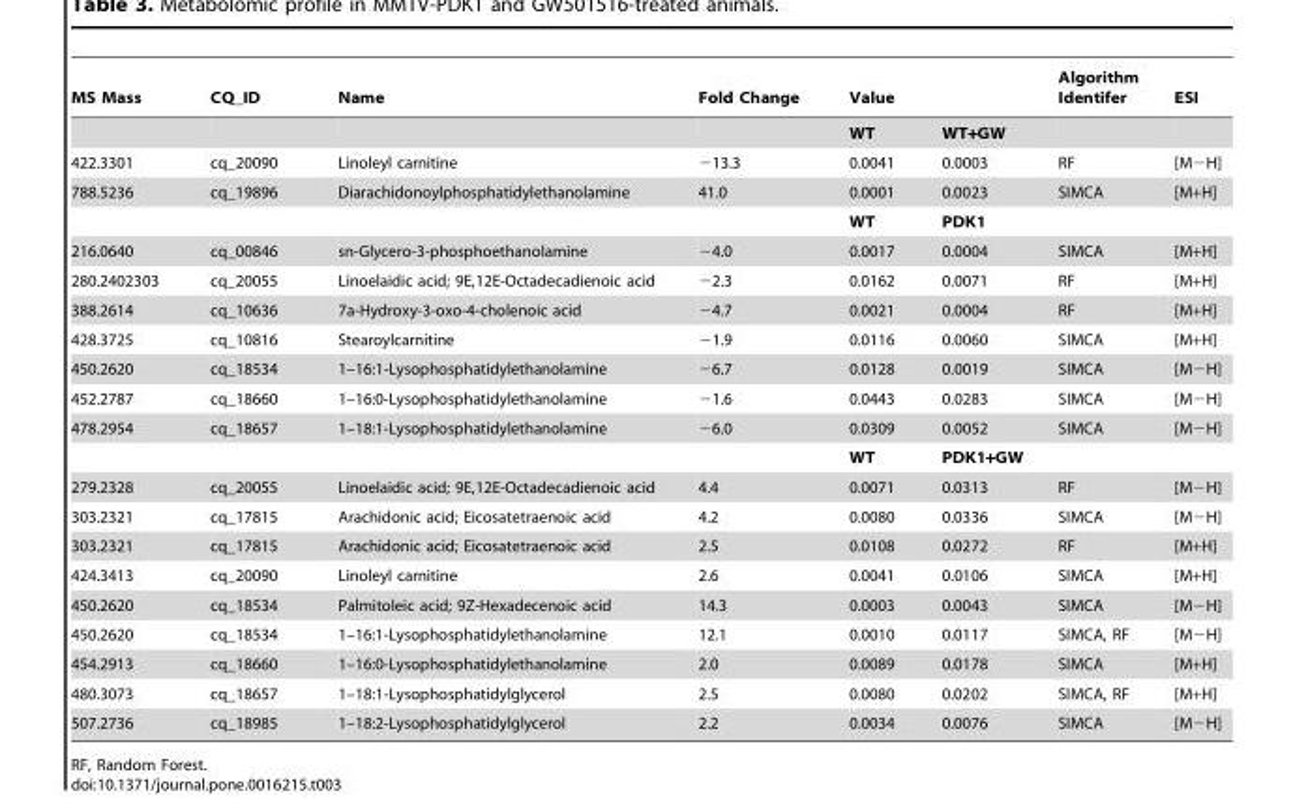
<table><thead><tr><td>MS Mass</td><td>CQ_ID</td><td>Name</td><td>Fold Change</td><td>Value</td><td></td><td>Algorithm Identifer</td><td>ESI</td></tr></thead><tbody><tr><td></td><td></td><td></td><td></td><td>WT</td><td>WT+GW</td><td></td><td></td></tr><tr><td>422.3301</td><td>cq_20090</td><td>Linoleyl carnitine</td><td>−13.3</td><td>0.0041</td><td>0.0003</td><td>RF</td><td>[M−H]</td></tr><tr><td rowspan="2">788.5236</td><td>cq_19896</td><td>Diarachidonoylphosphatidylethanolamine</td><td>41.0</td><td>0.0001</td><td>0.0023</td><td>SIMCA</td><td>[M+H]</td></tr><tr><td></td><td></td><td></td><td>WT</td><td>PDK1</td><td></td><td></td></tr><tr><td>216.0640</td><td>cq_00846</td><td>sn-Glycero-3-phosphoethanolamine</td><td>−4.0</td><td>0.0017</td><td>0.0004</td><td>SIMCA</td><td>[M+H]</td></tr><tr><td>280.2402303</td><td>cq_20055</td><td>Linoelaidic acid; 9E,12E-Octadecadienoic acid</td><td>−2.3</td><td>0.0162</td><td>0.0071</td><td>RF</td><td>[M+H]</td></tr><tr><td>388.2614</td><td>cq_10636</td><td>7a-Hydroxy-3-oxo-4-cholenoic acid</td><td>−4.7</td><td>0.0021</td><td>0.0004</td><td>RF</td><td>[M+H]</td></tr><tr><td>428.3725</td><td>cq_10816</td><td>Stearoylcarnitine</td><td>−1.9</td><td>0.0116</td><td>0.0060</td><td>SIMCA</td><td>[M+H]</td></tr><tr><td>450.2620</td><td>cq_18534</td><td>1–16:1-Lysophosphatidylethanolamine</td><td>−6.7</td><td>0.0128</td><td>0.0019</td><td>SIMCA</td><td>[M−H]</td></tr><tr><td>452.2787</td><td>cq_18660</td><td>1–16:0-Lysophosphatidylethanolamine</td><td>−1.6</td><td>0.0443</td><td>0.0283</td><td>SIMCA</td><td>[M−H]</td></tr><tr><td rowspan="2">478.2954</td><td>cq_18657</td><td>1–18:1-Lysophosphatidylethanolamine</td><td>−6.0</td><td>0.0309</td><td>0.0052</td><td>SIMCA</td><td>[M−H]</td></tr><tr><td></td><td></td><td></td><td>WT</td><td>PDK1+GW</td><td></td><td></td></tr><tr><td>279.2328</td><td>cq_20055</td><td>Linoelaidic acid; 9E,12E-Octadecadienoic acid</td><td>4.4</td><td>0.0071</td><td>0.0313</td><td>RF</td><td>[M−H]</td></tr><tr><td>303.2321</td><td>cq_17815</td><td>Arachidonic acid; Eicosatetraenoic acid</td><td>4.2</td><td>0.0080</td><td>0.0336</td><td>SIMCA</td><td>[M−H]</td></tr><tr><td>303.2321</td><td>cq_17815</td><td>Arachidonic acid; Eicosatetraenoic acid</td><td>2.5</td><td>0.0108</td><td>0.0272</td><td>RF</td><td>[M+H]</td></tr><tr><td>424.3413</td><td>cq_20090</td><td>Linoleyl carnitine</td><td>2.6</td><td>0.0041</td><td>0.0106</td><td>SIMCA</td><td>[M+H]</td></tr><tr><td>450.2620</td><td>cq_18534</td><td>Palmitoleic acid; 9Z-Hexadecenoic acid</td><td>14.3</td><td>0.0003</td><td>0.0043</td><td>SIMCA</td><td>[M−H]</td></tr><tr><td>450.2620</td><td>cq_18534</td><td>1–16:1-Lysophosphatidylethanolamine</td><td>12.1</td><td>0.0010</td><td>0.0117</td><td>SIMCA, RF</td><td>[M−H]</td></tr><tr><td>454.2913</td><td>cq_18660</td><td>1–16:0-Lysophosphatidylethanolamine</td><td>2.0</td><td>0.0089</td><td>0.0178</td><td>SIMCA</td><td>[M+H]</td></tr><tr><td>480.3073</td><td>cq_18657</td><td>1–18:1-Lysophosphatidylglycerol</td><td>2.5</td><td>0.0080</td><td>0.0202</td><td>SIMCA, RF</td><td>[M+H]</td></tr><tr><td>507.2736</td><td>cq_18985</td><td>1–18:2-Lysophosphatidylglycerol</td><td>2.2</td><td>0.0034</td><td>0.0076</td><td>SIMCA</td><td>[M−H]</td></tr></tbody></table>